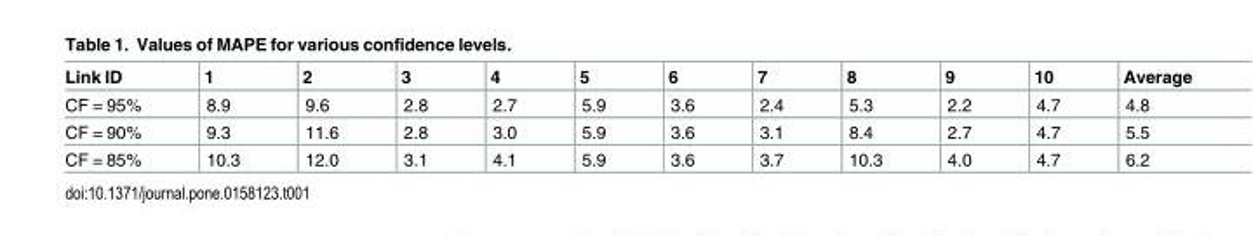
<table><thead><tr><td>Link ID</td><td>1</td><td>2</td><td>3</td><td>4</td><td>5</td><td>6</td><td>7</td><td>8</td><td>9</td><td>10</td><td>Average</td></tr></thead><tbody><tr><td>CF = 95%</td><td>8.9</td><td>9.6</td><td>2.8</td><td>2.7</td><td>5.9</td><td>3.6</td><td>2.4</td><td>5.3</td><td>2.2</td><td>4.7</td><td>4.8</td></tr><tr><td>CF = 90%</td><td>9.3</td><td>11.6</td><td>2.8</td><td>3.0</td><td>5.9</td><td>3.6</td><td>3.1</td><td>8.4</td><td>2.7</td><td>4.7</td><td>5.5</td></tr><tr><td>CF = 85%</td><td>10.3</td><td>12.0</td><td>3.1</td><td>4.1</td><td>5.9</td><td>3.6</td><td>3.7</td><td>10.3</td><td>4.0</td><td>4.7</td><td>6.2</td></tr></tbody></table>